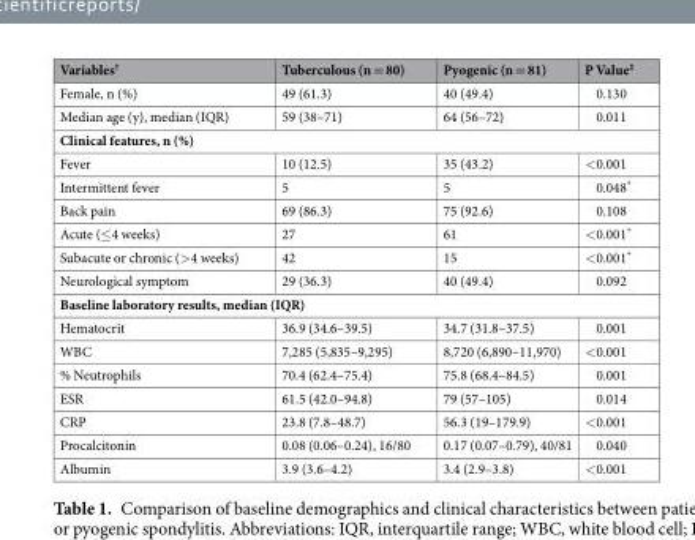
<table><thead><tr><td>Variables<sup>†</sup></td><td>Tuberculous (n = 80)</td><td>Pyogenic (n = 81)</td><td>P Value<sup>‡</sup></td></tr></thead><tbody><tr><td>Female, n (%)</td><td>49 (61.3)</td><td>40 (49.4)</td><td>0.130</td></tr><tr><td>Median age (y), median (IQR)</td><td>59 (38–71)</td><td>64 (56–72)</td><td>0.011</td></tr><tr><td colspan="4">Clinical features, n (%)</td></tr><tr><td>Fever</td><td>10 (12.5)</td><td>35 (43.2)</td><td>&lt;0.001</td></tr><tr><td>Intermittent fever</td><td>5</td><td>5</td><td>0.048*</td></tr><tr><td>Back pain</td><td>69 (86.3)</td><td>75 (92.6)</td><td>0.108</td></tr><tr><td>Acute (≤4 weeks)</td><td>27</td><td>61</td><td>&lt;0.001*</td></tr><tr><td>Subacute or chronic (&gt;4 weeks)</td><td>42</td><td>15</td><td>&lt;0.001*</td></tr><tr><td>Neurological symptom</td><td>29 (36.3)</td><td>40 (49.4)</td><td>0.092</td></tr><tr><td colspan="4">Baseline laboratory results, median (IQR)</td></tr><tr><td>Hematocrit</td><td>36.9 (34.6–39.5)</td><td>34.7 (31.8–37.5)</td><td>0.001</td></tr><tr><td>WBC</td><td>7,285 (5,835–9,295)</td><td>8,720 (6,890–11,970)</td><td>&lt;0.001</td></tr><tr><td>% Neutrophils</td><td>70.4 (62.4–75.4)</td><td>75.8 (68.4–84.5)</td><td>0.001</td></tr><tr><td>ESR</td><td>61.5 (42.0–94.8)</td><td>79 (57–105)</td><td>0.014</td></tr><tr><td>CRP</td><td>23.8 (7.8–48.7)</td><td>56.3 (19–179.9)</td><td>&lt;0.001</td></tr><tr><td>Procalcitonin</td><td>0.08 (0.06–0.24), 16/80</td><td>0.17 (0.07–0.79), 40/81</td><td>0.040</td></tr><tr><td>Albumin</td><td>3.9 (3.6–4.2)</td><td>3.4 (2.9–3.8)</td><td>&lt;0.001</td></tr></tbody></table>